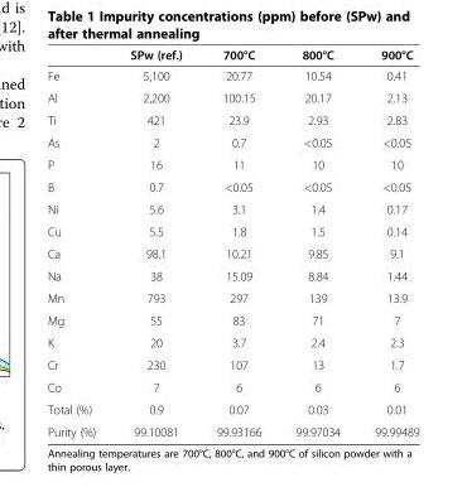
<table><thead><tr><td></td><td>SPw (ref.)</td><td>700°C</td><td>800°C</td><td>900°C</td></tr></thead><tbody><tr><td>Fe</td><td>5,100</td><td>20.77</td><td>10.54</td><td>0.41</td></tr><tr><td>Al</td><td>2,200</td><td>100.15</td><td>20.17</td><td>2.13</td></tr><tr><td>Ti</td><td>421</td><td>23.9</td><td>2.93</td><td>2.83</td></tr><tr><td>As</td><td>2</td><td>0.7</td><td>&lt;0.05</td><td>&lt;0.05</td></tr><tr><td>P</td><td>16</td><td>11</td><td>10</td><td>10</td></tr><tr><td>B</td><td>0.7</td><td>&lt;0.05</td><td>&lt;0.05</td><td>&lt;0.05</td></tr><tr><td>Ni</td><td>5.6</td><td>3.1</td><td>1.4</td><td>0.17</td></tr><tr><td>Cu</td><td>5.5</td><td>1.8</td><td>1.5</td><td>0.14</td></tr><tr><td>Ca</td><td>98.1</td><td>10.21</td><td>9.85</td><td>9.1</td></tr><tr><td>Na</td><td>38</td><td>15.09</td><td>8.84</td><td>1.44</td></tr><tr><td>Mn</td><td>793</td><td>297</td><td>139</td><td>13.9</td></tr><tr><td>Mg</td><td>55</td><td>83</td><td>71</td><td>7</td></tr><tr><td>K</td><td>20</td><td>3.7</td><td>2.4</td><td>2.3</td></tr><tr><td>Cr</td><td>230</td><td>107</td><td>13</td><td>1.7</td></tr><tr><td>Co</td><td>7</td><td>6</td><td>6</td><td>6</td></tr><tr><td>Total (%)</td><td>0.9</td><td>0.07</td><td>0.03</td><td>0.01</td></tr><tr><td>Purity (%)</td><td>99.10081</td><td>99.93166</td><td>99.97034</td><td>99.99489</td></tr></tbody></table>